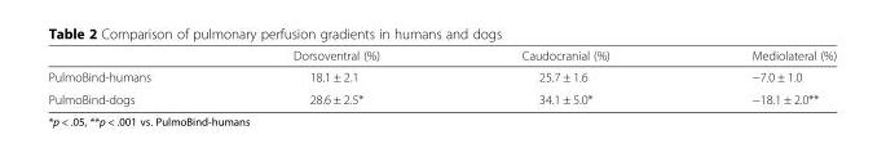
<table><thead><tr><td></td><td>Dorsoventral (%)</td><td>Caudocranial (%)</td><td>Mediolateral (%)</td></tr></thead><tbody><tr><td>PulmoBind-humans</td><td>18.1 ± 2.1</td><td>25.7 ± 1.6</td><td>−7.0 ± 1.0</td></tr><tr><td>PulmoBind-dogs</td><td>28.6 ± 2.5*</td><td>34.1 ± 5.0*</td><td>−18.1 ± 2.0**</td></tr></tbody></table>